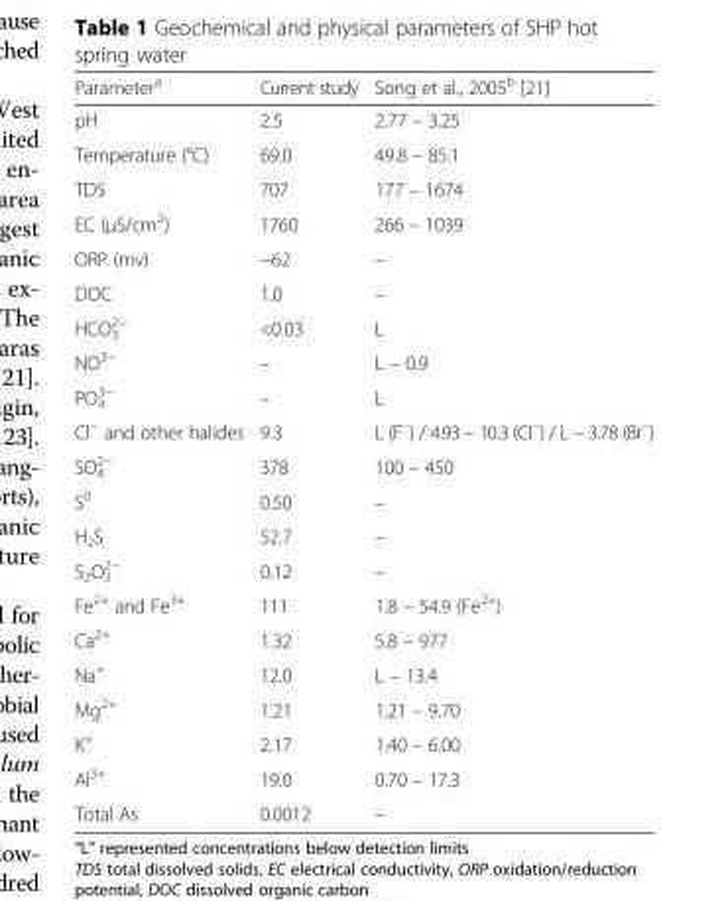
<table><thead><tr><td>Parameter<sup>a</sup></td><td>Current study</td><td>Song et al., 2005<sup>b</sup> [21]</td></tr></thead><tbody><tr><td>pH</td><td>2.5</td><td>2.77 – 3.25</td></tr><tr><td>Temperature (°C)</td><td>69.0</td><td>49.8 – 85.1</td></tr><tr><td>TDS</td><td>707</td><td>177 – 1674</td></tr><tr><td>EC (μS/cm<sup>2</sup>)</td><td>1760</td><td>266 – 1039</td></tr><tr><td>ORP (mv)</td><td>−62</td><td>–</td></tr><tr><td>DOC</td><td>1.0</td><td>–</td></tr><tr><td>HCO<sub>3</sub> <sup>2−</sup></td><td>&lt;0.03</td><td>L</td></tr><tr><td>NO<sup>3−</sup></td><td>–</td><td>L – 0.9</td></tr><tr><td>PO<sub>4</sub> <sup>3−</sup></td><td>–</td><td>L</td></tr><tr><td>Cl<sup>−</sup> and other halides</td><td>9.3</td><td>L (F<sup>−</sup>) / 4.93 – 10.3 (Cl<sup>−</sup>) / L – 3.78 (Br<sup>−</sup>)</td></tr><tr><td>SO<sub>4</sub> <sup>2−</sup></td><td>378</td><td>100 – 450</td></tr><tr><td>S<sup>0</sup></td><td>0.50</td><td>–</td></tr><tr><td>H<sub>2</sub>S</td><td>52.7</td><td>–</td></tr><tr><td>S<sub>2</sub>O<sub>3</sub> <sup>2−</sup></td><td>0.12</td><td>–</td></tr><tr><td>Fe<sup>2+</sup> and Fe<sup>3+</sup></td><td>111</td><td>1.8 – 54.9 (Fe<sup>2+</sup>)</td></tr><tr><td>Ca<sup>2+</sup></td><td>1.32</td><td>5.8 – 977</td></tr><tr><td>Na<sup>+</sup></td><td>12.0</td><td>L – 13.4</td></tr><tr><td>Mg<sup>2+</sup></td><td>1.21</td><td>1.21 – 9.70</td></tr><tr><td>K<sup>+</sup></td><td>2.17</td><td>1.40 – 6.00</td></tr><tr><td>Al<sup>3+</sup></td><td>19.0</td><td>0.70 – 17.3</td></tr><tr><td>Total As</td><td>0.0012</td><td>–</td></tr></tbody></table>